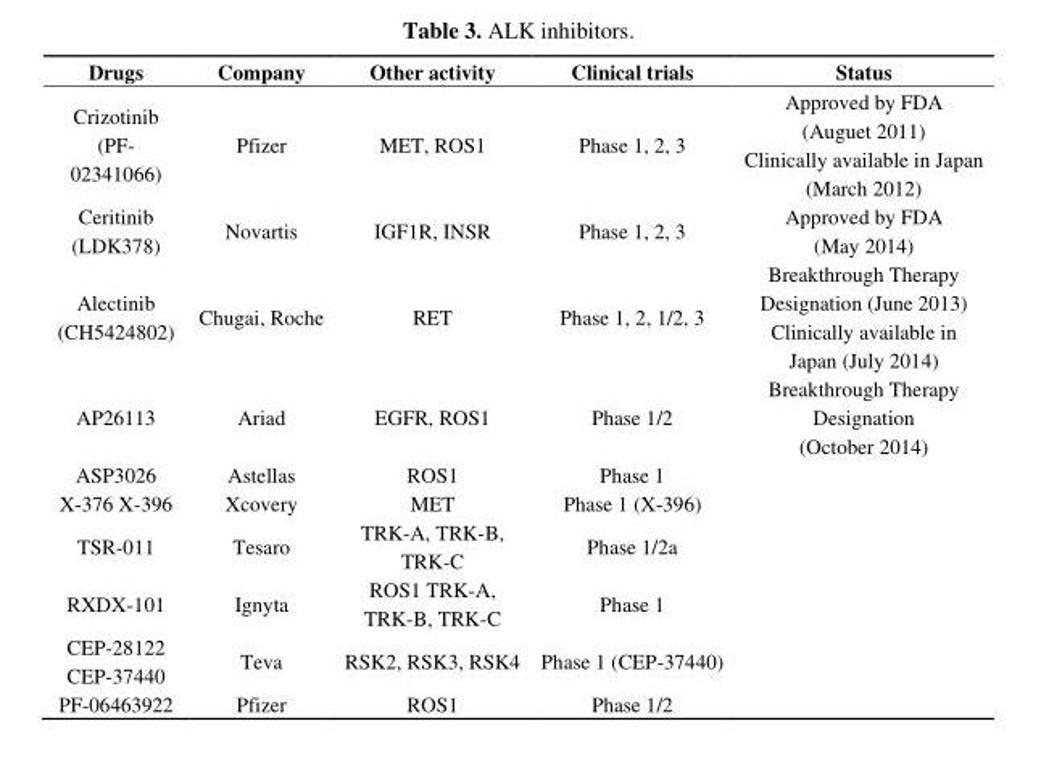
<table><thead><tr><td>Drugs</td><td>Company</td><td>Other activity</td><td>Clinical trials</td><td>Status</td></tr></thead><tbody><tr><td>Crizotinib (PF- 02341066)</td><td>Pfizer</td><td>MET, ROS1</td><td>Phase 1, 2, 3</td><td>Approved by FDA (Auguet 2011) Clinically available in Japan (March 2012)</td></tr><tr><td>Ceritinib (LDK378)</td><td>Novartis</td><td>IGF1R, INSR</td><td>Phase 1, 2, 3</td><td>Approved by FDA (May 2014)</td></tr><tr><td>Alectinib (CH5424802)</td><td>Chugai, Roche</td><td>RET</td><td>Phase 1, 2, 1/2, 3</td><td>Breakthrough Therapy Designation (June 2013) Clinically available in Japan (July 2014)</td></tr><tr><td>AP26113</td><td>Ariad</td><td>EGFR, ROS1</td><td>Phase 1/2</td><td>Breakthrough Therapy Designation (October 2014)</td></tr><tr><td>ASP3026</td><td>Astellas</td><td>ROS1</td><td>Phase 1</td><td></td></tr><tr><td>X-376 X-396</td><td>Xcovery</td><td>MET</td><td>Phase 1 (X-396)</td><td></td></tr><tr><td>TSR-011</td><td>Tesaro</td><td>TRK-A, TRK-B, TRK-C</td><td>Phase 1/2a</td><td></td></tr><tr><td>RXDX-101</td><td>Ignyta</td><td>ROS1 TRK-A, TRK-B, TRK-C</td><td>Phase 1</td><td></td></tr><tr><td>CEP-28122 CEP-37440</td><td>Teva</td><td>RSK2, RSK3, RSK4</td><td>Phase 1 (CEP-37440)</td><td></td></tr><tr><td>PF-06463922</td><td>Pfizer</td><td>ROS1</td><td>Phase 1/2</td><td></td></tr></tbody></table>